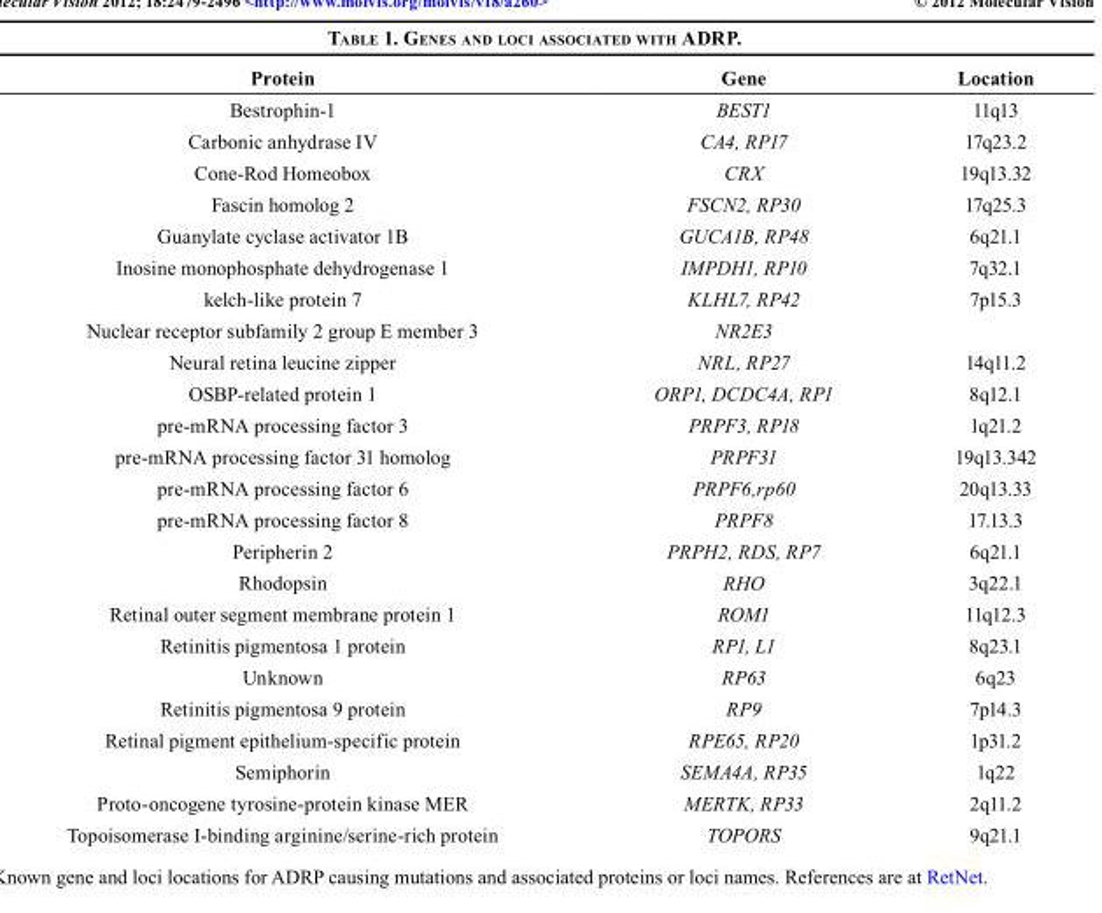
<table><thead><tr><td>Protein</td><td>Gene</td><td>Location</td></tr></thead><tbody><tr><td>Bestrophin-1</td><td>BEST1</td><td>11q13</td></tr><tr><td>Carbonic anhydrase IV</td><td>CA4, RP17</td><td>17q23.2</td></tr><tr><td>Cone-Rod Homeobox</td><td>CRX</td><td>19q13.32</td></tr><tr><td>Fascin homolog 2</td><td>FSCN2, RP30</td><td>17q25.3</td></tr><tr><td>Guanylate cyclase activator 1B</td><td>GUCA1B, RP48</td><td>6q21.1</td></tr><tr><td>Inosine monophosphate dehydrogenase 1</td><td>IMPDH1, RP10</td><td>7q32.1</td></tr><tr><td>kelch-like protein 7</td><td>KLHL7, RP42</td><td>7p15.3</td></tr><tr><td>Nuclear receptor subfamily 2 group E member 3</td><td>NR2E3</td><td></td></tr><tr><td>Neural retina leucine zipper</td><td>NRL, RP27</td><td>14q11.2</td></tr><tr><td>OSBP-related protein 1</td><td>ORP1, DCDC4A, RP1</td><td>8q12.1</td></tr><tr><td>pre-mRNA processing factor 3</td><td>PRPF3, RP18</td><td>1q21.2</td></tr><tr><td>pre-mRNA processing factor 31 homolog</td><td>PRPF31</td><td>19q13.342</td></tr><tr><td>pre-mRNA processing factor 6</td><td>PRPF6,rp60</td><td>20q13.33</td></tr><tr><td>pre-mRNA processing factor 8</td><td>PRPF8</td><td>17.13.3</td></tr><tr><td>Peripherin 2</td><td>PRPH2, RDS, RP7</td><td>6q21.1</td></tr><tr><td>Rhodopsin</td><td>RHO</td><td>3q22.1</td></tr><tr><td>Retinal outer segment membrane protein 1</td><td>ROM1</td><td>11q12.3</td></tr><tr><td>Retinitis pigmentosa 1 protein</td><td>RP1, L1</td><td>8q23.1</td></tr><tr><td>Unknown</td><td>RP63</td><td>6q23</td></tr><tr><td>Retinitis pigmentosa 9 protein</td><td>RP9</td><td>7p14.3</td></tr><tr><td>Retinal pigment epithelium-specific protein</td><td>RPE65, RP20</td><td>1p31.2</td></tr><tr><td>Semiphorin</td><td>SEMA4A, RP35</td><td>1q22</td></tr><tr><td>Proto-oncogene tyrosine-protein kinase MER</td><td>MERTK, RP33</td><td>2q11.2</td></tr><tr><td>Topoisomerase I-binding arginine/serine-rich protein</td><td>TOPORS</td><td>9q21.1</td></tr></tbody></table>